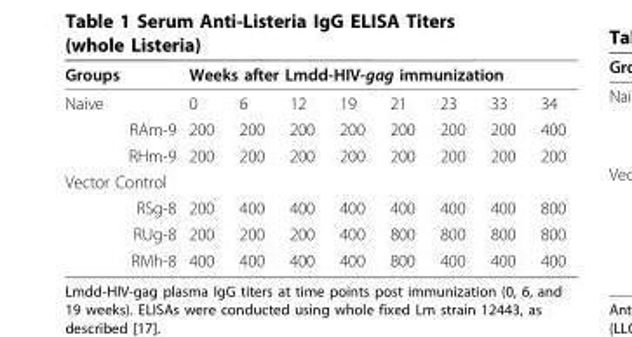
<table><thead><tr><td rowspan="2">Groups Naive</td><td colspan="8">Weeks after Lmdd-HIV-gag immunization</td></tr><tr><td>0</td><td>6</td><td>12</td><td>19</td><td>21</td><td>23</td><td>33</td><td>34</td></tr></thead><tbody><tr><td>RAm-9</td><td>200</td><td>200</td><td>200</td><td>200</td><td>200</td><td>200</td><td>200</td><td>400</td></tr><tr><td>RHm-9</td><td>200</td><td>200</td><td>200</td><td>200</td><td>200</td><td>200</td><td>200</td><td>200</td></tr><tr><td colspan="9">Vector Control</td></tr><tr><td>RSg-8</td><td>200</td><td>400</td><td>400</td><td>400</td><td>400</td><td>400</td><td>400</td><td>800</td></tr><tr><td>RUg-8</td><td>200</td><td>200</td><td>200</td><td>400</td><td>800</td><td>800</td><td>800</td><td>800</td></tr><tr><td>RMh-8</td><td>400</td><td>400</td><td>400</td><td>400</td><td>800</td><td>400</td><td>400</td><td>400</td></tr></tbody></table>